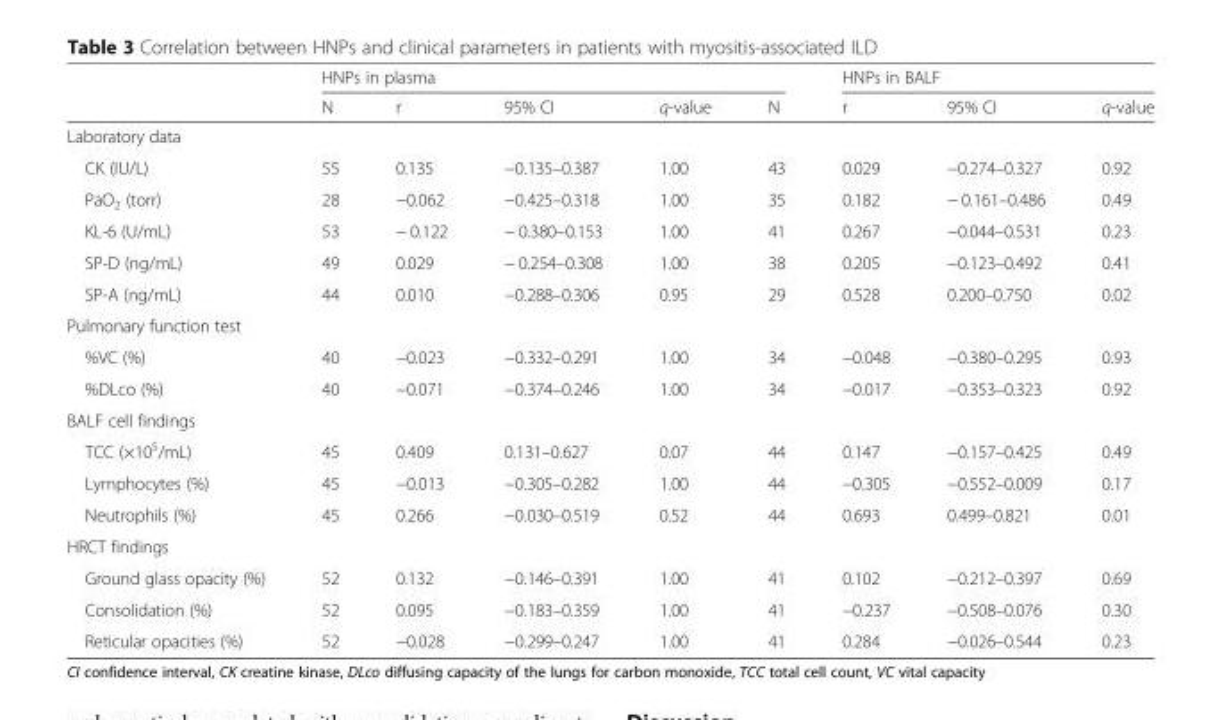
<table><thead><tr><td rowspan="2"></td><td colspan="5">HNPs in plasma</td><td colspan="3">HNPs in BALF</td></tr><tr><td>N</td><td>r</td><td>95% CI</td><td>q-value</td><td>N</td><td>r</td><td>95% CI</td><td>q-value</td></tr></thead><tbody><tr><td colspan="9">Laboratory data</td></tr><tr><td>CK (IU/L)</td><td>55</td><td>0.135</td><td>−0.135–0.387</td><td>1.00</td><td>43</td><td>0.029</td><td>−0.274–0.327</td><td>0.92</td></tr><tr><td>PaO<sub>2</sub> (torr)</td><td>28</td><td>−0.062</td><td>−0.425–0.318</td><td>1.00</td><td>35</td><td>0.182</td><td>− 0.161–0.486</td><td>0.49</td></tr><tr><td>KL-6 (U/mL)</td><td>53</td><td>− 0.122</td><td>− 0.380–0.153</td><td>1.00</td><td>41</td><td>0.267</td><td>−0.044–0.531</td><td>0.23</td></tr><tr><td>SP-D (ng/mL)</td><td>49</td><td>0.029</td><td>− 0.254–0.308</td><td>1.00</td><td>38</td><td>0.205</td><td>−0.123–0.492</td><td>0.41</td></tr><tr><td>SP-A (ng/mL)</td><td>44</td><td>0.010</td><td>−0.288–0.306</td><td>0.95</td><td>29</td><td>0.528</td><td>0.200–0.750</td><td>0.02</td></tr><tr><td colspan="9">Pulmonary function test</td></tr><tr><td>%VC (%)</td><td>40</td><td>−0.023</td><td>−0.332–0.291</td><td>1.00</td><td>34</td><td>−0.048</td><td>−0.380–0.295</td><td>0.93</td></tr><tr><td>%DLco (%)</td><td>40</td><td>−0.071</td><td>−0.374–0.246</td><td>1.00</td><td>34</td><td>−0.017</td><td>−0.353–0.323</td><td>0.92</td></tr><tr><td colspan="9">BALF cell findings</td></tr><tr><td>TCC (×10<sup>5</sup>/mL)</td><td>45</td><td>0.409</td><td>0.131–0.627</td><td>0.07</td><td>44</td><td>0.147</td><td>−0.157–0.425</td><td>0.49</td></tr><tr><td>Lymphocytes (%)</td><td>45</td><td>−0.013</td><td>−0.305–0.282</td><td>1.00</td><td>44</td><td>−0.305</td><td>−0.552–0.009</td><td>0.17</td></tr><tr><td>Neutrophils (%)</td><td>45</td><td>0.266</td><td>−0.030–0.519</td><td>0.52</td><td>44</td><td>0.693</td><td>0.499–0.821</td><td>0.01</td></tr><tr><td colspan="9">HRCT findings</td></tr><tr><td>Ground glass opacity (%)</td><td>52</td><td>0.132</td><td>−0.146–0.391</td><td>1.00</td><td>41</td><td>0.102</td><td>−0.212–0.397</td><td>0.69</td></tr><tr><td>Consolidation (%)</td><td>52</td><td>0.095</td><td>−0.183–0.359</td><td>1.00</td><td>41</td><td>−0.237</td><td>−0.508–0.076</td><td>0.30</td></tr><tr><td>Reticular opacities (%)</td><td>52</td><td>−0.028</td><td>−0.299–0.247</td><td>1.00</td><td>41</td><td>0.284</td><td>−0.026–0.544</td><td>0.23</td></tr></tbody></table>